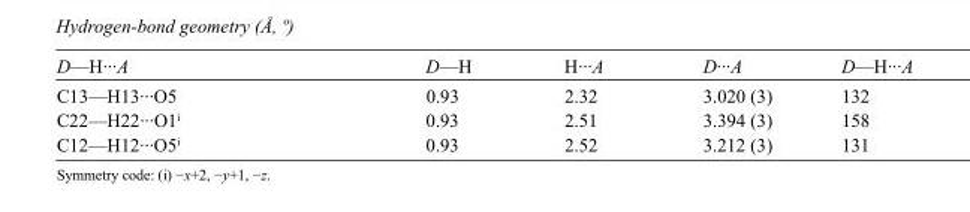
<table><tbody><tr><td>D—H···A</td><td>D—H</td><td>H···A</td><td>D···A</td><td>D—H···A</td></tr><tr><td>C13—H13···O5</td><td>0.93</td><td>2.32</td><td>3.020 (3)</td><td>132</td></tr><tr><td>C22—H22···O1<sup>i</sup></td><td>0.93</td><td>2.51</td><td>3.394 (3)</td><td>158</td></tr><tr><td>C12—H12···O5<sup>i</sup></td><td>0.93</td><td>2.52</td><td>3.212 (3)</td><td>131</td></tr></tbody></table>